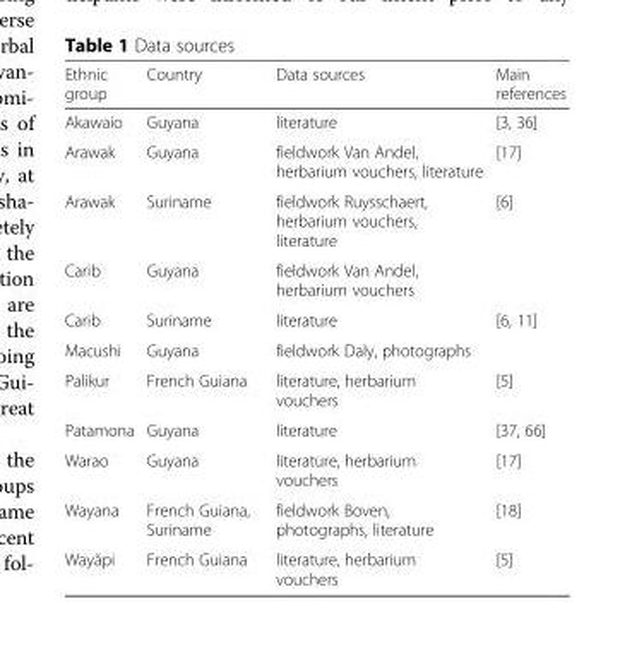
<table><thead><tr><td>Ethnic group</td><td>Country</td><td>Data sources</td><td>Main references</td></tr></thead><tbody><tr><td>Akawaio</td><td>Guyana</td><td>literature</td><td>[3, 36]</td></tr><tr><td>Arawak</td><td>Guyana</td><td>fieldwork Van Andel, herbarium vouchers, literature</td><td>[17]</td></tr><tr><td>Arawak</td><td>Suriname</td><td>fieldwork Ruysschaert, herbarium vouchers, literature</td><td>[6]</td></tr><tr><td>Carib</td><td>Guyana</td><td>fieldwork Van Andel, herbarium vouchers</td><td></td></tr><tr><td>Carib</td><td>Suriname</td><td>literature</td><td>[6, 11]</td></tr><tr><td>Macushi</td><td>Guyana</td><td>fieldwork Daly, photographs</td><td></td></tr><tr><td>Palikur</td><td>French Guiana</td><td>literature, herbarium vouchers</td><td>[5]</td></tr><tr><td>Patamona</td><td>Guyana</td><td>literature</td><td>[37, 66]</td></tr><tr><td>Warao</td><td>Guyana</td><td>literature, herbarium vouchers</td><td>[17]</td></tr><tr><td>Wayana</td><td>French Guiana, Suriname</td><td>fieldwork Boven, photographs, literature</td><td>[18]</td></tr><tr><td>Wayãpi</td><td>French Guiana</td><td>literature, herbarium vouchers</td><td>[5]</td></tr></tbody></table>